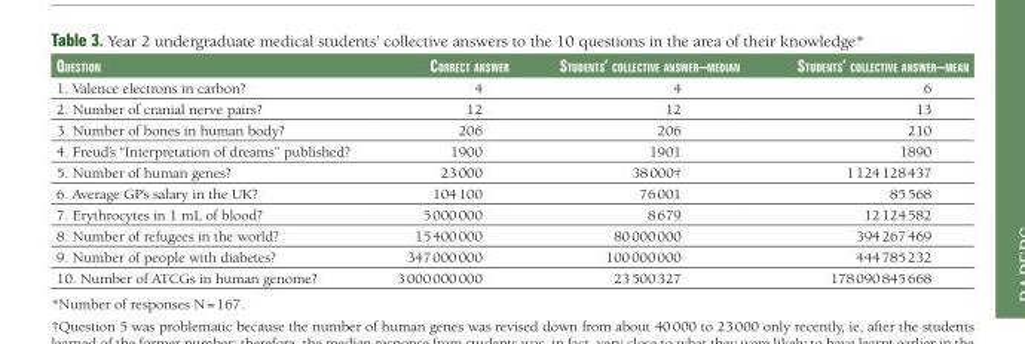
<table><thead><tr><td>Question</td><td>CorreCt answer</td><td>students’ ColleCtive answer–median</td><td>students’ ColleCtive answer–mean</td></tr></thead><tbody><tr><td>1. Valence electrons in carbon?</td><td>4</td><td>4</td><td>6</td></tr><tr><td>2. Number of cranial nerve pairs?</td><td>12</td><td>12</td><td>13</td></tr><tr><td>3. Number of bones in human body?</td><td>206</td><td>206</td><td>210</td></tr><tr><td>4. Freud’s “Interpretation of dreams” published?</td><td>1900</td><td>1901</td><td>1890</td></tr><tr><td>5. Number of human genes?</td><td>23 000</td><td>38 000†</td><td>1 124 128 437</td></tr><tr><td>6. Average GP’s salary in the UK?</td><td>104 100</td><td>76 001</td><td>85 568</td></tr><tr><td>7. Erythrocytes in 1 mL of blood?</td><td>5 000 000</td><td>8 679</td><td>12 124 582</td></tr><tr><td>8. Number of refugees in the world?</td><td>15 400 000</td><td>80 000 000</td><td>394 267 469</td></tr><tr><td>9. Number of people with diabetes?</td><td>347 000 000</td><td>100 000 000</td><td>444 785 232</td></tr><tr><td>10. Number of ATCGs in human genome?</td><td>3 000 000 000</td><td>23 500 327</td><td>178 090 845 668</td></tr></tbody></table>